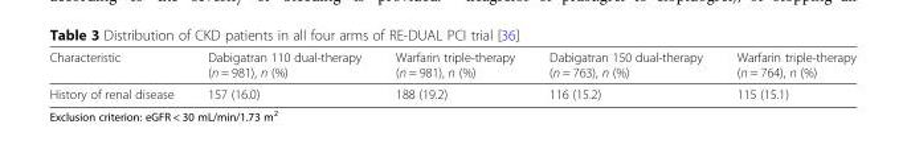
<table><thead><tr><td>Characteristic</td><td>Dabigatran 110 dual-therapy (n = 981), n (%)</td><td>Warfarin triple-therapy (n = 981), n (%)</td><td>Dabigatran 150 dual-therapy (n = 763), n (%)</td><td>Warfarin triple-therapy (n = 764), n (%)</td></tr></thead><tbody><tr><td>History of renal disease</td><td>157 (16.0)</td><td>188 (19.2)</td><td>116 (15.2)</td><td>115 (15.1)</td></tr></tbody></table>